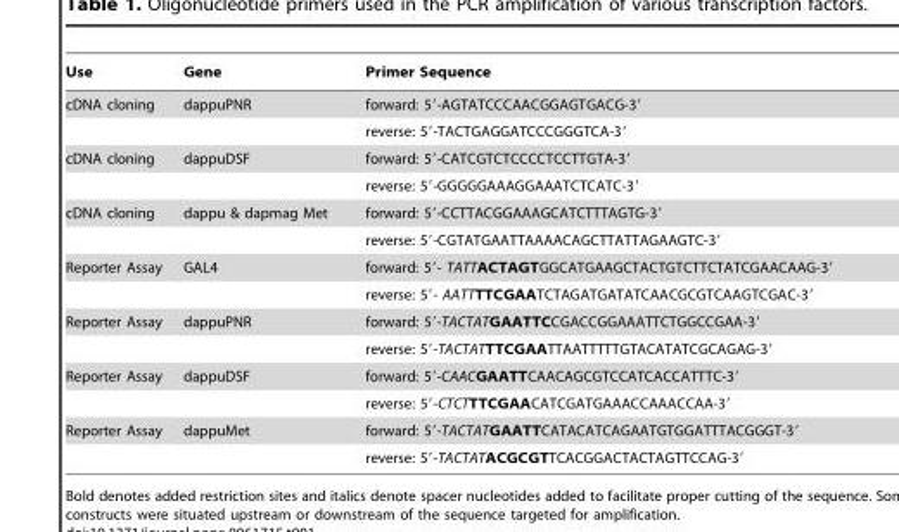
<table><thead><tr><td>Use</td><td>Gene</td><td>Primer Sequence</td></tr></thead><tbody><tr><td rowspan="2">cDNA cloning</td><td>dappuPNR</td><td>forward: 5′-AGTATCCCAACGGAGTGACG-3′</td></tr><tr><td></td><td>reverse: 5′-TACTGAGGATCCCGGGTCA-3′</td></tr><tr><td rowspan="2">cDNA cloning</td><td>dappuDSF</td><td>forward: 5′-CATCGTCTCCCCTCCTTGTA-3′</td></tr><tr><td></td><td>reverse: 5′-GGGGGAAAGGAAATCTCATC-3′</td></tr><tr><td rowspan="2">cDNA cloning</td><td>dappu &amp; dapmag Met</td><td>forward: 5′-CCTTACGGAAAGCATCTTTAGTG-3′</td></tr><tr><td></td><td>reverse: 5′-CGTATGAATTAAAACAGCTTATTAGAAGTC-3′</td></tr><tr><td rowspan="2">Reporter Assay</td><td>GAL4</td><td>forward: 5′- TATTACTAGTGGCATGAAGCTACTGTCTTCTATCGAACAAG-3′</td></tr><tr><td></td><td>reverse: 5′- AATTTTCGAATCTAGATGATATCAACGCGTCAAGTCGAC-3′</td></tr><tr><td rowspan="2">Reporter Assay</td><td>dappuPNR</td><td>forward: 5′-TACTATGAATTCCGACCGGAAATTCTGGCCGAA-3′</td></tr><tr><td></td><td>reverse: 5′-TACTATTTCGAATTAATTTTTGTACATATCGCAGAG-3′</td></tr><tr><td rowspan="2">Reporter Assay</td><td>dappuDSF</td><td>forward: 5′-CAACGAATTCAACAGCGTCCATCACCATTTC-3′</td></tr><tr><td></td><td>reverse: 5′-CTCTTTCGAACATCGATGAAACCAAACCAA-3′</td></tr><tr><td rowspan="2">Reporter Assay</td><td>dappuMet</td><td>forward: 5′-TACTATGAATTCATACATCAGAATGTGGATTTACGGGT-3′</td></tr><tr><td></td><td>reverse: 5′-TACTATACGCGTTCACGGACTACTAGTTCCAG-3′</td></tr></tbody></table>